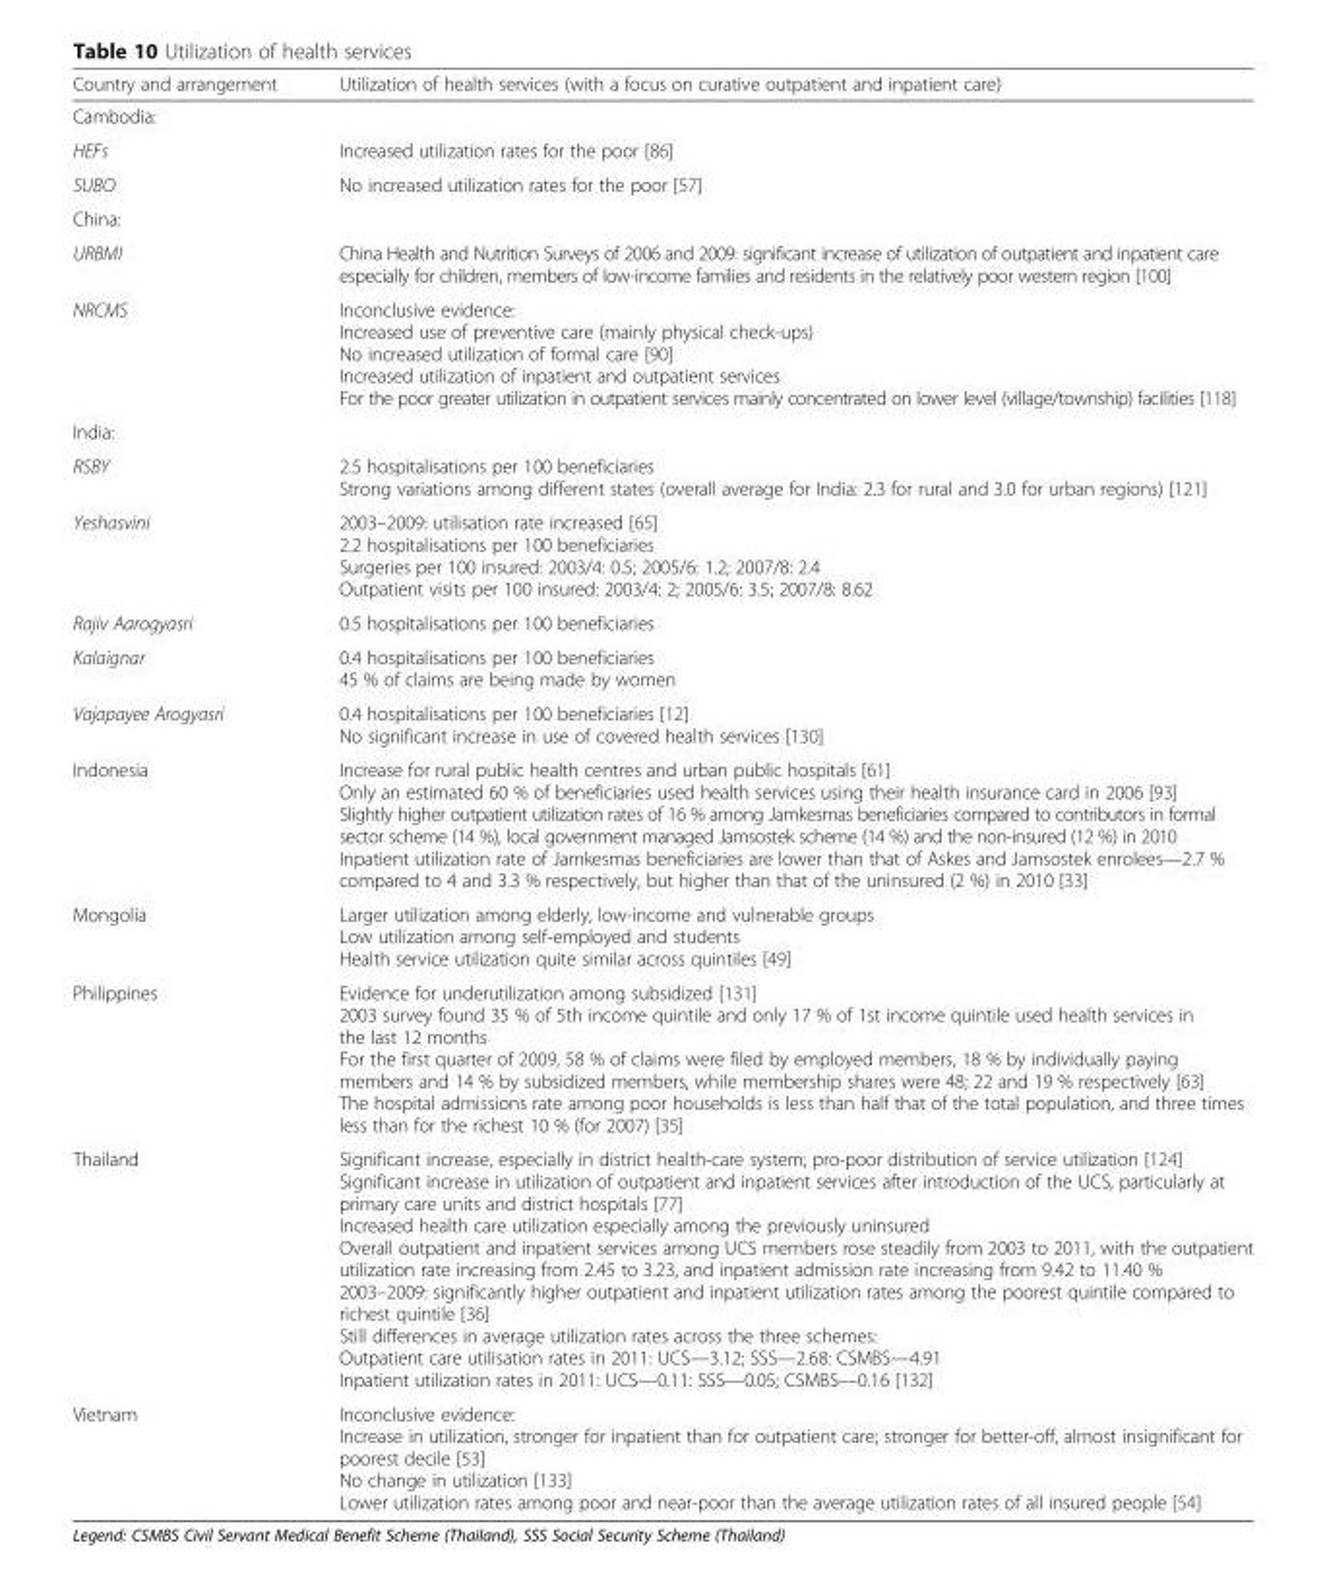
<table><thead><tr><td>Country and arrangement</td><td>Utilization of health services (with a focus on curative outpatient and inpatient care)</td></tr></thead><tbody><tr><td colspan="2">Cambodia:</td></tr><tr><td>HEFs</td><td>Increased utilization rates for the poor [86]</td></tr><tr><td>SUBO</td><td>No increased utilization rates for the poor [57]</td></tr><tr><td colspan="2">China:</td></tr><tr><td>URBMI</td><td>China Health and Nutrition Surveys of 2006 and 2009: significant increase of utilization of outpatient and inpatient care especially for children, members of low-income families and residents in the relatively poor western region [100]</td></tr><tr><td>NRCMS</td><td>Inconclusive evidence: Increased use of preventive care (mainly physical check-ups) No increased utilization of formal care [90] Increased utilization of inpatient and outpatient services For the poor greater utilization in outpatient services mainly concentrated on lower level (village/township) facilities [118]</td></tr><tr><td colspan="2">India:</td></tr><tr><td>RSBY</td><td>2.5 hospitalisations per 100 beneficiaries Strong variations among different states (overall average for India: 2.3 for rural and 3.0 for urban regions) [121]</td></tr><tr><td>Yeshasvini</td><td>2003–2009: utilisation rate increased [65] 2.2 hospitalisations per 100 beneficiaries Surgeries per 100 insured: 2003/4: 0.5; 2005/6: 1.2; 2007/8: 2.4 Outpatient visits per 100 insured: 2003/4: 2; 2005/6: 3.5; 2007/8: 8.62</td></tr><tr><td>Rajiv Aarogyasri</td><td>0.5 hospitalisations per 100 beneficiaries</td></tr><tr><td>Kalaignar</td><td>0.4 hospitalisations per 100 beneficiaries 45 % of claims are being made by women</td></tr><tr><td>Vajapayee Arogyasri</td><td>0.4 hospitalisations per 100 beneficiaries [12] No significant increase in use of covered health services [130]</td></tr><tr><td>Indonesia</td><td>Increase for rural public health centres and urban public hospitals [61] Only an estimated 60 % of beneficiaries used health services using their health insurance card in 2006 [93] Slightly higher outpatient utilization rates of 16 % among Jamkesmas beneficiaries compared to contributors in formal sector scheme (14 %), local government managed Jamsostek scheme (14 %) and the non-insured (12 %) in 2010 Inpatient utilization rate of Jamkesmas beneficiaries are lower than that of Askes and Jamsostek enrolees—2.7 % compared to 4 and 3.3 % respectively, but higher than that of the uninsured (2 %) in 2010 [33]</td></tr><tr><td>Mongolia</td><td>Larger utilization among elderly, low-income and vulnerable groups Low utilization among self-employed and students Health service utilization quite similar across quintiles [49]</td></tr><tr><td>Philippines</td><td>Evidence for underutilization among subsidized [131] 2003 survey found 35 % of 5th income quintile and only 17 % of 1st income quintile used health services in the last 12 months For the first quarter of 2009, 58 % of claims were filed by employed members, 18 % by individually paying members and 14 % by subsidized members, while membership shares were 48; 22 and 19 % respectively [63] The hospital admissions rate among poor households is less than half that of the total population, and three times less than for the richest 10 % (for 2007) [35]</td></tr><tr><td>Thailand</td><td>Significant increase, especially in district health-care system; pro-poor distribution of service utilization [124] Significant increase in utilization of outpatient and inpatient services after introduction of the UCS, particularly at primary care units and district hospitals [77] Increased health care utilization especially among the previously uninsured Overall outpatient and inpatient services among UCS members rose steadily from 2003 to 2011, with the outpatient utilization rate increasing from 2.45 to 3.23, and inpatient admission rate increasing from 9.42 to 11.40 % 2003–2009: significantly higher outpatient and inpatient utilization rates among the poorest quintile compared to richest quintile [36] Still differences in average utilization rates across the three schemes: Outpatient care utilisation rates in 2011: UCS—3.12; SSS—2.68: CSMBS—4.91 Inpatient utilization rates in 2011: UCS—0.11: SSS—0.05; CSMBS—0.16 [132]</td></tr><tr><td>Vietnam</td><td>Inconclusive evidence: Increase in utilization, stronger for inpatient than for outpatient care; stronger for better-off, almost insignificant for poorest decile [53] No change in utilization [133] Lower utilization rates among poor and near-poor than the average utilization rates of all insured people [54]</td></tr></tbody></table>